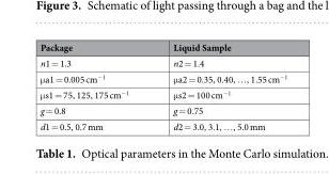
<table><thead><tr><td>Package</td><td>Liquid Sample</td></tr></thead><tbody><tr><td>n1 = 1.3</td><td>n2 = 1.4</td></tr><tr><td>μa1 = 0.005 cm<sup>−1</sup></td><td>μa2 = 0.35, 0.40, …, 1.55 cm<sup>−1</sup></td></tr><tr><td>μs1 = 75, 125, 175 cm<sup>−1</sup></td><td>μs2 = 100 cm<sup>−1</sup></td></tr><tr><td>g = 0.8</td><td>g = 0.75</td></tr><tr><td>d1 = 0.5, 0.7 mm</td><td>d2 = 3.0, 3.1, …, 5.0 mm</td></tr></tbody></table>